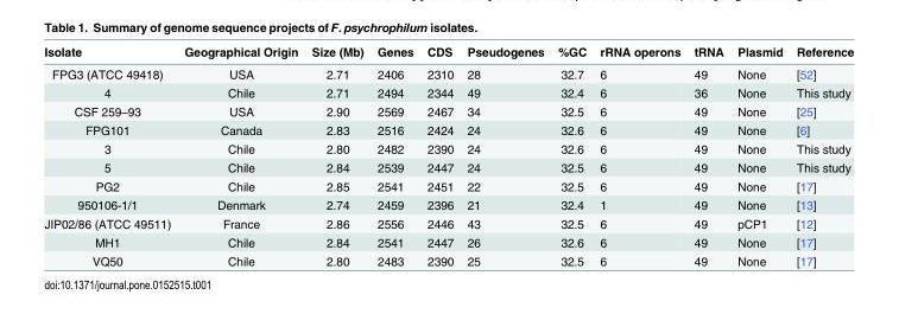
<table><thead><tr><td>Isolate</td><td>Geographical Origin</td><td>Size (Mb)</td><td>Genes</td><td>CDS</td><td>Pseudogenes</td><td>%GC</td><td>rRNA operons</td><td>tRNA</td><td>Plasmid</td><td>Reference</td></tr></thead><tbody><tr><td>FPG3 (ATCC 49418)</td><td>USA</td><td>2.71</td><td>2406</td><td>2310</td><td>28</td><td>32.7</td><td>6</td><td>49</td><td>None</td><td>[52]</td></tr><tr><td>4</td><td>Chile</td><td>2.71</td><td>2494</td><td>2344</td><td>49</td><td>32.4</td><td>6</td><td>36</td><td>None</td><td>This study</td></tr><tr><td>CSF 259–93</td><td>USA</td><td>2.90</td><td>2569</td><td>2467</td><td>34</td><td>32.5</td><td>6</td><td>49</td><td>None</td><td>[25]</td></tr><tr><td>FPG101</td><td>Canada</td><td>2.83</td><td>2516</td><td>2424</td><td>24</td><td>32.6</td><td>6</td><td>49</td><td>None</td><td>[6]</td></tr><tr><td>3</td><td>Chile</td><td>2.80</td><td>2482</td><td>2390</td><td>24</td><td>32.6</td><td>6</td><td>49</td><td>None</td><td>This study</td></tr><tr><td>5</td><td>Chile</td><td>2.84</td><td>2539</td><td>2447</td><td>24</td><td>32.5</td><td>6</td><td>49</td><td>None</td><td>This study</td></tr><tr><td>PG2</td><td>Chile</td><td>2.85</td><td>2541</td><td>2451</td><td>22</td><td>32.5</td><td>6</td><td>49</td><td>None</td><td>[17]</td></tr><tr><td>950106-1/1</td><td>Denmark</td><td>2.74</td><td>2459</td><td>2396</td><td>21</td><td>32.4</td><td>1</td><td>49</td><td>None</td><td>[13]</td></tr><tr><td>JIP02/86 (ATCC 49511)</td><td>France</td><td>2.86</td><td>2556</td><td>2446</td><td>43</td><td>32.5</td><td>6</td><td>49</td><td>pCP1</td><td>[12]</td></tr><tr><td>MH1</td><td>Chile</td><td>2.84</td><td>2541</td><td>2447</td><td>26</td><td>32.6</td><td>6</td><td>49</td><td>None</td><td>[17]</td></tr><tr><td>VQ50</td><td>Chile</td><td>2.80</td><td>2483</td><td>2390</td><td>25</td><td>32.5</td><td>6</td><td>49</td><td>None</td><td>[17]</td></tr></tbody></table>